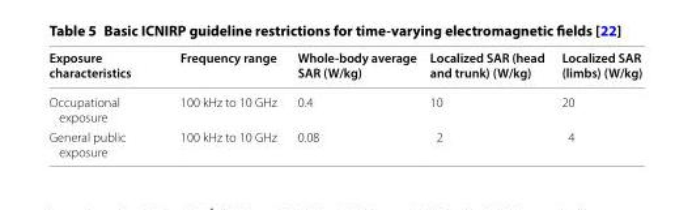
<table><thead><tr><td>Exposure characteristics</td><td>Frequency range</td><td>Whole-body average SAR (W/kg)</td><td>Localized SAR (head and trunk) (W/kg)</td><td>Localized SAR (limbs) (W/kg)</td></tr></thead><tbody><tr><td>Occupational exposure</td><td>100 kHz to 10 GHz</td><td>0.4</td><td>10</td><td>20</td></tr><tr><td>General public exposure</td><td>100 kHz to 10 GHz</td><td>0.08</td><td>2</td><td>4</td></tr></tbody></table>